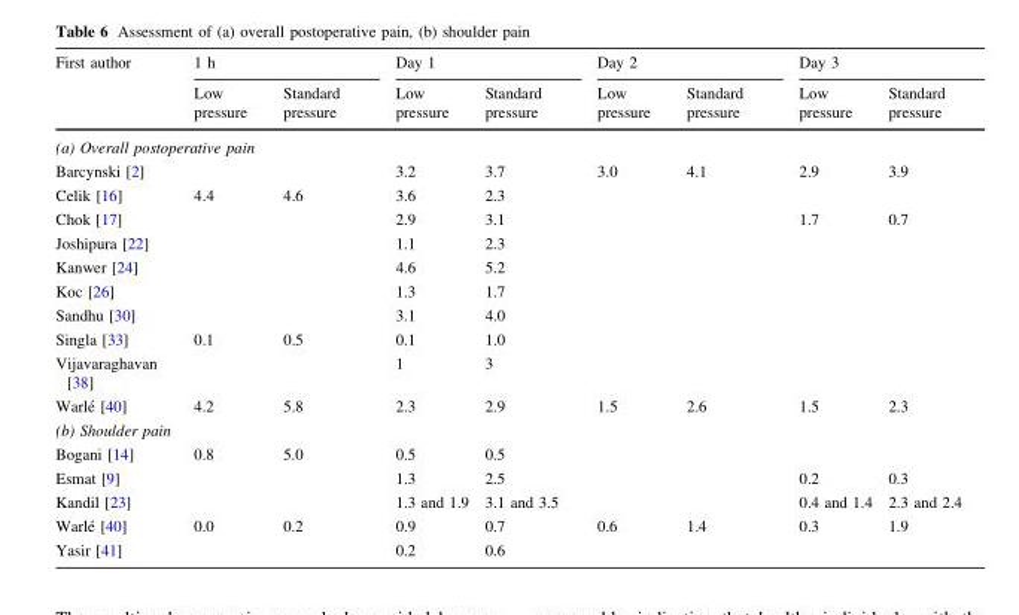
<table><thead><tr><td rowspan="2">First author</td><td colspan="2">1 h</td><td colspan="2">Day 1</td><td colspan="2">Day 2</td><td colspan="2">Day 3</td></tr><tr><td>Low pressure</td><td>Standard pressure</td><td>Low pressure</td><td>Standard pressure</td><td>Low pressure</td><td>Standard pressure</td><td>Low pressure</td><td>Standard pressure</td></tr></thead><tbody><tr><td colspan="9">(a) Overall postoperative pain</td></tr><tr><td>Barcynski [2]</td><td></td><td></td><td>3.2</td><td>3.7</td><td>3.0</td><td>4.1</td><td>2.9</td><td>3.9</td></tr><tr><td>Celik [16]</td><td>4.4</td><td>4.6</td><td>3.6</td><td>2.3</td><td></td><td></td><td></td><td></td></tr><tr><td>Chok [17]</td><td></td><td></td><td>2.9</td><td>3.1</td><td></td><td></td><td>1.7</td><td>0.7</td></tr><tr><td>Joshipura [22]</td><td></td><td></td><td>1.1</td><td>2.3</td><td></td><td></td><td></td><td></td></tr><tr><td>Kanwer [24]</td><td></td><td></td><td>4.6</td><td>5.2</td><td></td><td></td><td></td><td></td></tr><tr><td>Koc [26]</td><td></td><td></td><td>1.3</td><td>1.7</td><td></td><td></td><td></td><td></td></tr><tr><td>Sandhu [30]</td><td></td><td></td><td>3.1</td><td>4.0</td><td></td><td></td><td></td><td></td></tr><tr><td>Singla [33]</td><td>0.1</td><td>0.5</td><td>0.1</td><td>1.0</td><td></td><td></td><td></td><td></td></tr><tr><td>Vijavaraghavan [38]</td><td></td><td></td><td>1</td><td>3</td><td></td><td></td><td></td><td></td></tr><tr><td>Warle´ [40]</td><td>4.2</td><td>5.8</td><td>2.3</td><td>2.9</td><td>1.5</td><td>2.6</td><td>1.5</td><td>2.3</td></tr><tr><td colspan="9">(b) Shoulder pain</td></tr><tr><td>Bogani [14]</td><td>0.8</td><td>5.0</td><td>0.5</td><td>0.5</td><td></td><td></td><td></td><td></td></tr><tr><td>Esmat [9]</td><td></td><td></td><td>1.3</td><td>2.5</td><td></td><td></td><td>0.2</td><td>0.3</td></tr><tr><td>Kandil [23]</td><td></td><td></td><td>1.3 and 1.9</td><td>3.1 and 3.5</td><td></td><td></td><td>0.4 and 1.4</td><td>2.3 and 2.4</td></tr><tr><td>Warle´ [40]</td><td>0.0</td><td>0.2</td><td>0.9</td><td>0.7</td><td>0.6</td><td>1.4</td><td>0.3</td><td>1.9</td></tr><tr><td>Yasir [41]</td><td></td><td></td><td>0.2</td><td>0.6</td><td></td><td></td><td></td><td></td></tr></tbody></table>